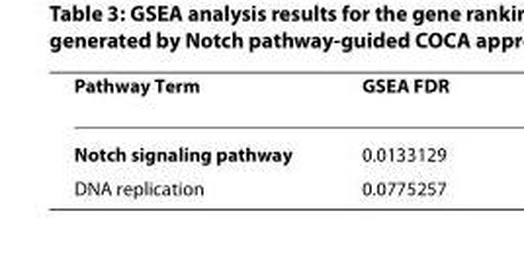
<table><thead><tr><td>Pathway Term</td><td>GSEA FDR</td></tr></thead><tbody><tr><td>Notch signaling pathway</td><td>0.0133129</td></tr><tr><td>DNA replication</td><td>0.0775257</td></tr></tbody></table>